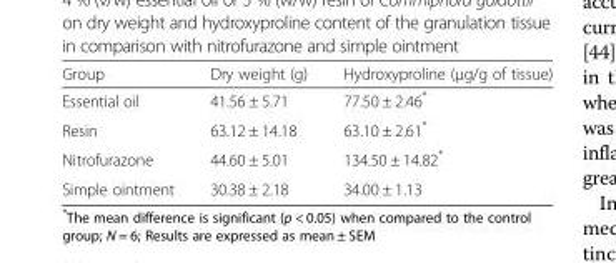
<table><thead><tr><td>Group</td><td>Dry weight (g)</td><td>Hydroxyproline (μg/g of tissue)</td></tr></thead><tbody><tr><td>Essential oil</td><td>41.56 ± 5.71</td><td>77.50 ± 2.46*</td></tr><tr><td>Resin</td><td>63.12 ± 14.18</td><td>63.10 ± 2.61*</td></tr><tr><td>Nitrofurazone</td><td>44.60 ± 5.01</td><td>134.50 ± 14.82*</td></tr><tr><td>Simple ointment</td><td>30.38 ± 2.18</td><td>34.00 ± 1.13</td></tr></tbody></table>